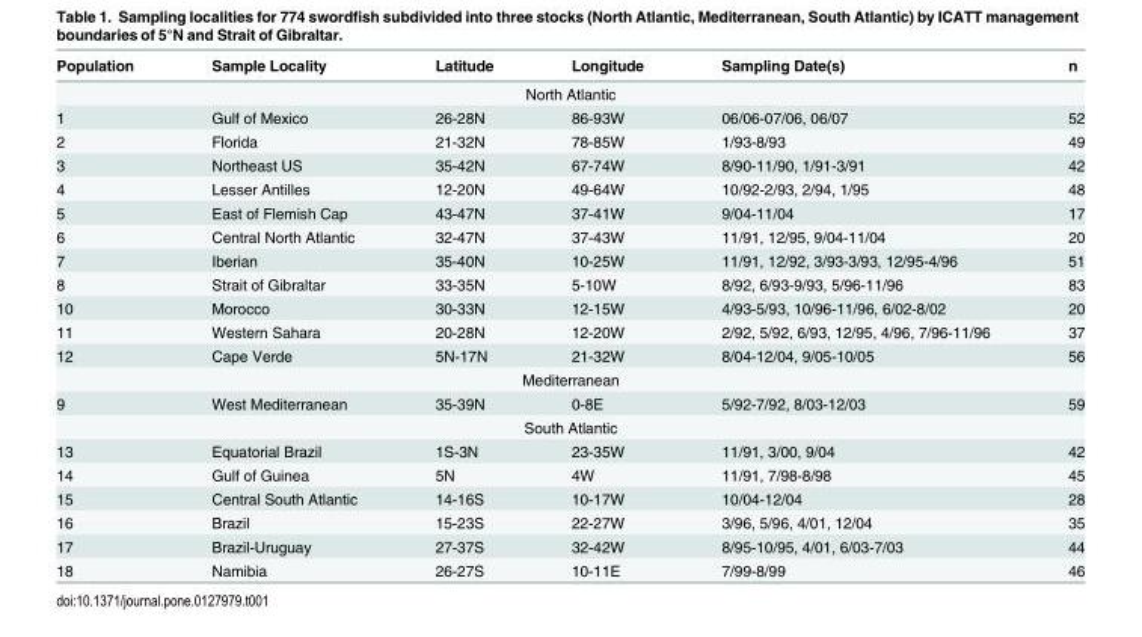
<table><thead><tr><td>Population</td><td>Sample Locality</td><td>Latitude</td><td>Longitude</td><td>Sampling Date(s)</td><td>n</td></tr></thead><tbody><tr><td colspan="6">North Atlantic</td></tr><tr><td>1</td><td>Gulf of Mexico</td><td>26-28N</td><td>86-93W</td><td>06/06-07/06, 06/07</td><td>52</td></tr><tr><td>2</td><td>Florida</td><td>21-32N</td><td>78-85W</td><td>1/93-8/93</td><td>49</td></tr><tr><td>3</td><td>Northeast US</td><td>35-42N</td><td>67-74W</td><td>8/90-11/90, 1/91-3/91</td><td>42</td></tr><tr><td>4</td><td>Lesser Antilles</td><td>12-20N</td><td>49-64W</td><td>10/92-2/93, 2/94, 1/95</td><td>48</td></tr><tr><td>5</td><td>East of Flemish Cap</td><td>43-47N</td><td>37-41W</td><td>9/04-11/04</td><td>17</td></tr><tr><td>6</td><td>Central North Atlantic</td><td>32-47N</td><td>37-43W</td><td>11/91, 12/95, 9/04-11/04</td><td>20</td></tr><tr><td>7</td><td>Iberian</td><td>35-40N</td><td>10-25W</td><td>11/91, 12/92, 3/93-3/93, 12/95-4/96</td><td>51</td></tr><tr><td>8</td><td>Strait of Gibraltar</td><td>33-35N</td><td>5-10W</td><td>8/92, 6/93-9/93, 5/96-11/96</td><td>83</td></tr><tr><td>10</td><td>Morocco</td><td>30-33N</td><td>12-15W</td><td>4/93-5/93, 10/96-11/96, 6/02-8/02</td><td>20</td></tr><tr><td>11</td><td>Western Sahara</td><td>20-28N</td><td>12-20W</td><td>2/92, 5/92, 6/93, 12/95, 4/96, 7/96-11/96</td><td>37</td></tr><tr><td>12</td><td>Cape Verde</td><td>5N-17N</td><td>21-32W</td><td>8/04-12/04, 9/05-10/05</td><td>56</td></tr><tr><td colspan="6">Mediterranean</td></tr><tr><td>9</td><td>West Mediterranean</td><td>35-39N</td><td>0-8E</td><td>5/92-7/92, 8/03-12/03</td><td>59</td></tr><tr><td colspan="6">South Atlantic</td></tr><tr><td>13</td><td>Equatorial Brazil</td><td>1S-3N</td><td>23-35W</td><td>11/91, 3/00, 9/04</td><td>42</td></tr><tr><td>14</td><td>Gulf of Guinea</td><td>5N</td><td>4W</td><td>11/91, 7/98-8/98</td><td>45</td></tr><tr><td>15</td><td>Central South Atlantic</td><td>14-16S</td><td>10-17W</td><td>10/04-12/04</td><td>28</td></tr><tr><td>16</td><td>Brazil</td><td>15-23S</td><td>22-27W</td><td>3/96, 5/96, 4/01, 12/04</td><td>35</td></tr><tr><td>17</td><td>Brazil-Uruguay</td><td>27-37S</td><td>32-42W</td><td>8/95-10/95, 4/01, 6/03-7/03</td><td>44</td></tr><tr><td>18</td><td>Namibia</td><td>26-27S</td><td>10-11E</td><td>7/99-8/99</td><td>46</td></tr></tbody></table>